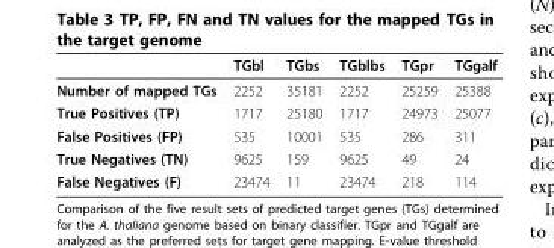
<table><thead><tr><td></td><td>TGbl</td><td>TGbs</td><td>TGblbs</td><td>TGpr</td><td>TGgalf</td></tr></thead><tbody><tr><td>Number of mapped TGs</td><td>2252</td><td>35181</td><td>2252</td><td>25259</td><td>25388</td></tr><tr><td>True Positives (TP)</td><td>1717</td><td>25180</td><td>1717</td><td>24973</td><td>25077</td></tr><tr><td>False Positives (FP)</td><td>535</td><td>10001</td><td>535</td><td>286</td><td>311</td></tr><tr><td>True Negatives (TN)</td><td>9625</td><td>159</td><td>9625</td><td>49</td><td>24</td></tr><tr><td>False Negatives (F)</td><td>23474</td><td>11</td><td>23474</td><td>218</td><td>114</td></tr></tbody></table>